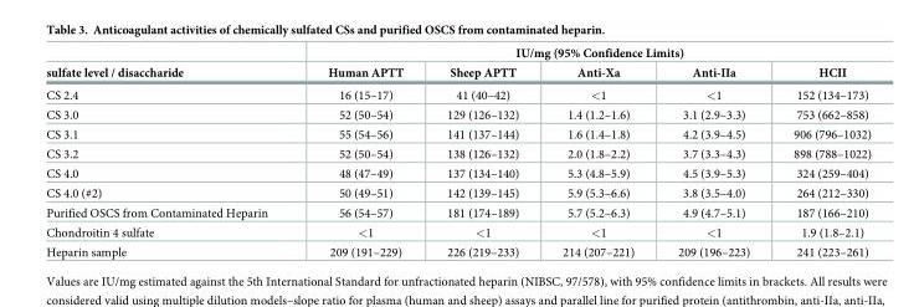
<table><thead><tr><td rowspan="2">sulfate level / disaccharide</td><td colspan="5">IU/mg (95% Confidence Limits)</td></tr><tr><td>Human APTT</td><td>Sheep APTT</td><td>Anti-Xa</td><td>Anti-IIa</td><td>HCII</td></tr></thead><tbody><tr><td>CS 2.4</td><td>16 (15–17)</td><td>41 (40–42)</td><td>&lt;1</td><td>&lt;1</td><td>152 (134–173)</td></tr><tr><td>CS 3.0</td><td>52 (50–54)</td><td>129 (126–132)</td><td>1.4 (1.2–1.6)</td><td>3.1 (2.9–3.3)</td><td>753 (662–858)</td></tr><tr><td>CS 3.1</td><td>55 (54–56)</td><td>141 (137–144)</td><td>1.6 (1.4–1.8)</td><td>4.2 (3.9–4.5)</td><td>906 (796–1032)</td></tr><tr><td>CS 3.2</td><td>52 (50–54)</td><td>138 (126–132)</td><td>2.0 (1.8–2.2)</td><td>3.7 (3.3–4.3)</td><td>898 (788–1022)</td></tr><tr><td>CS 4.0</td><td>48 (47–49)</td><td>137 (134–140)</td><td>5.3 (4.8–5.9)</td><td>4.5 (3.9–5.3)</td><td>324 (259–404)</td></tr><tr><td>CS 4.0 (#2)</td><td>50 (49–51)</td><td>142 (139–145)</td><td>5.9 (5.3–6.6)</td><td>3.8 (3.5–4.0)</td><td>264 (212–330)</td></tr><tr><td>Purified OSCS from Contaminated Heparin</td><td>56 (54–57)</td><td>181 (174–189)</td><td>5.7 (5.2–6.3)</td><td>4.9 (4.7–5.1)</td><td>187 (166–210)</td></tr><tr><td>Chondroitin 4 sulfate</td><td>&lt;1</td><td>&lt;1</td><td>&lt;1</td><td>&lt;1</td><td>1.9 (1.8–2.1)</td></tr><tr><td>Heparin sample</td><td>209 (191–229)</td><td>226 (219–233)</td><td>214 (207–221)</td><td>209 (196–223)</td><td>241 (223–261)</td></tr></tbody></table>